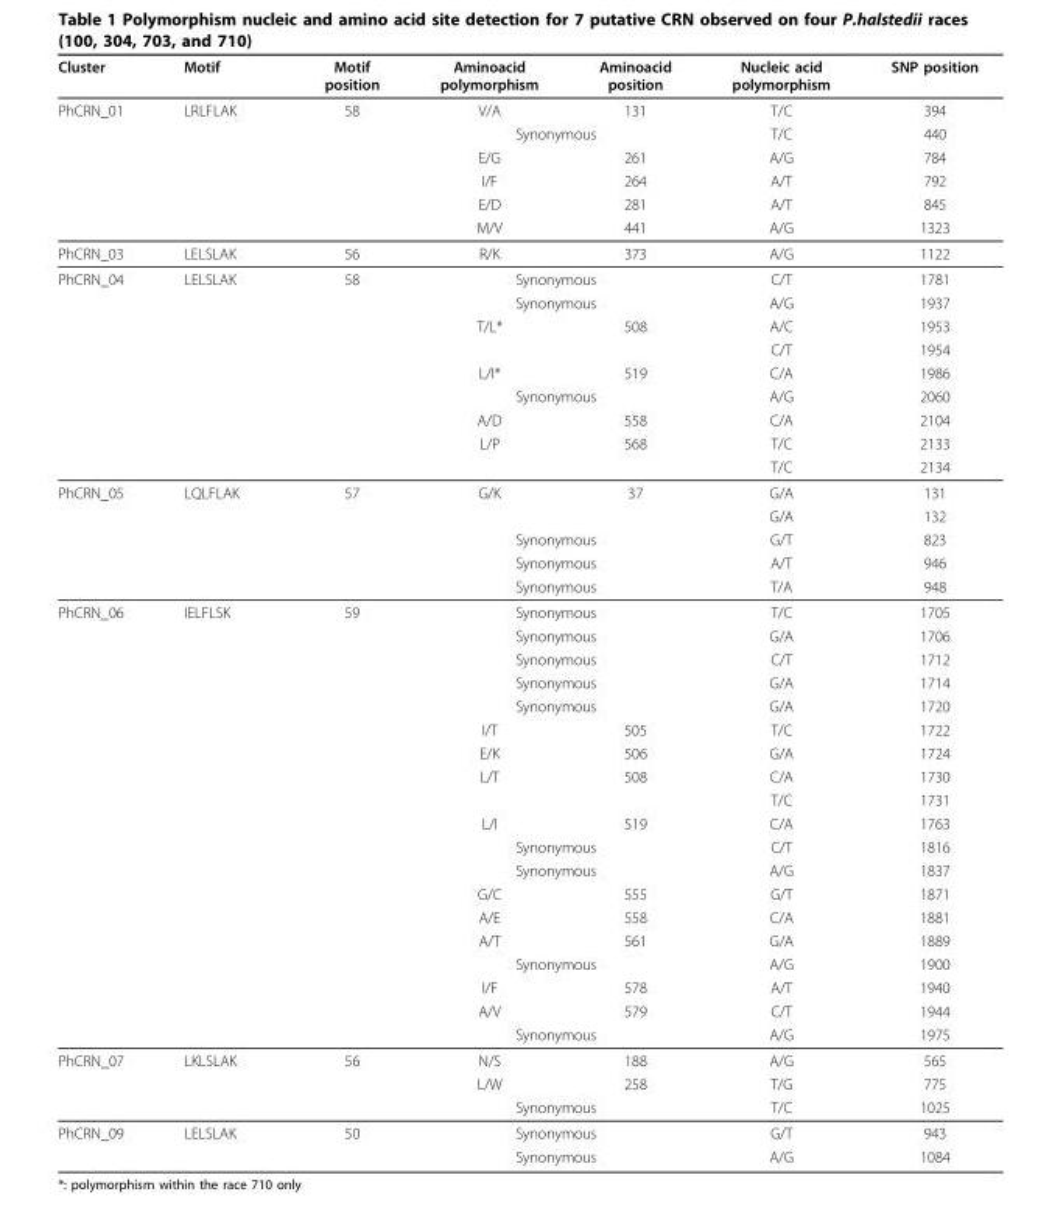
<table><thead><tr><td>Cluster</td><td>Motif</td><td>Motif position</td><td>Aminoacid polymorphism</td><td>Aminoacid position</td><td>Nucleic acid polymorphism</td><td>SNP position</td></tr></thead><tbody><tr><td rowspan="6">PhCRN_01</td><td>LRLFLAK</td><td>58</td><td>V/A</td><td>131</td><td>T/C</td><td>394</td></tr><tr><td></td><td></td><td colspan="2">Synonymous</td><td>T/C</td><td>440</td></tr><tr><td></td><td></td><td>E/G</td><td>261</td><td>A/G</td><td>784</td></tr><tr><td></td><td></td><td>I/F</td><td>264</td><td>A/T</td><td>792</td></tr><tr><td></td><td></td><td>E/D</td><td>281</td><td>A/T</td><td>845</td></tr><tr><td></td><td></td><td>M/V</td><td>441</td><td>A/G</td><td>1323</td></tr><tr><td>PhCRN_03</td><td>LELSLAK</td><td>56</td><td>R/K</td><td>373</td><td>A/G</td><td>1122</td></tr><tr><td rowspan="9">PhCRN_04</td><td>LELSLAK</td><td>58</td><td colspan="2">Synonymous</td><td>C/T</td><td>1781</td></tr><tr><td></td><td></td><td colspan="2">Synonymous</td><td>A/G</td><td>1937</td></tr><tr><td></td><td></td><td>T/L*</td><td>508</td><td>A/C</td><td>1953</td></tr><tr><td></td><td></td><td></td><td></td><td>C/T</td><td>1954</td></tr><tr><td></td><td></td><td>L/I*</td><td>519</td><td>C/A</td><td>1986</td></tr><tr><td></td><td></td><td colspan="2">Synonymous</td><td>A/G</td><td>2060</td></tr><tr><td></td><td></td><td>A/D</td><td>558</td><td>C/A</td><td>2104</td></tr><tr><td></td><td></td><td>L/P</td><td>568</td><td>T/C</td><td>2133</td></tr><tr><td></td><td></td><td></td><td></td><td>T/C</td><td>2134</td></tr><tr><td rowspan="5">PhCRN_05</td><td>LQLFLAK</td><td>57</td><td>G/K</td><td>37</td><td>G/A</td><td>131</td></tr><tr><td></td><td></td><td></td><td></td><td>G/A</td><td>132</td></tr><tr><td></td><td></td><td colspan="2">Synonymous</td><td>G/T</td><td>823</td></tr><tr><td></td><td></td><td colspan="2">Synonymous</td><td>A/T</td><td>946</td></tr><tr><td></td><td></td><td colspan="2">Synonymous</td><td>T/A</td><td>948</td></tr><tr><td rowspan="19">PhCRN_06</td><td>IELFLSK</td><td>59</td><td colspan="2">Synonymous</td><td>T/C</td><td>1705</td></tr><tr><td></td><td></td><td colspan="2">Synonymous</td><td>G/A</td><td>1706</td></tr><tr><td></td><td></td><td colspan="2">Synonymous</td><td>C/T</td><td>1712</td></tr><tr><td></td><td></td><td colspan="2">Synonymous</td><td>G/A</td><td>1714</td></tr><tr><td></td><td></td><td colspan="2">Synonymous</td><td>G/A</td><td>1720</td></tr><tr><td></td><td></td><td>I/T</td><td>505</td><td>T/C</td><td>1722</td></tr><tr><td></td><td></td><td>E/K</td><td>506</td><td>G/A</td><td>1724</td></tr><tr><td></td><td></td><td>L/T</td><td>508</td><td>C/A</td><td>1730</td></tr><tr><td></td><td></td><td></td><td></td><td>T/C</td><td>1731</td></tr><tr><td></td><td></td><td>L/I</td><td>519</td><td>C/A</td><td>1763</td></tr><tr><td></td><td></td><td colspan="2">Synonymous</td><td>C/T</td><td>1816</td></tr><tr><td></td><td></td><td colspan="2">Synonymous</td><td>A/G</td><td>1837</td></tr><tr><td></td><td></td><td>G/C</td><td>555</td><td>G/T</td><td>1871</td></tr><tr><td></td><td></td><td>A/E</td><td>558</td><td>C/A</td><td>1881</td></tr><tr><td></td><td></td><td>A/T</td><td>561</td><td>G/A</td><td>1889</td></tr><tr><td></td><td></td><td colspan="2">Synonymous</td><td>A/G</td><td>1900</td></tr><tr><td></td><td></td><td>I/F</td><td>578</td><td>A/T</td><td>1940</td></tr><tr><td></td><td></td><td>A/V</td><td>579</td><td>C/T</td><td>1944</td></tr><tr><td></td><td></td><td colspan="2">Synonymous</td><td>A/G</td><td>1975</td></tr><tr><td rowspan="3">PhCRN_07</td><td>LKLSLAK</td><td>56</td><td>N/S</td><td>188</td><td>A/G</td><td>565</td></tr><tr><td></td><td></td><td>L/W</td><td>258</td><td>T/G</td><td>775</td></tr><tr><td></td><td></td><td colspan="2">Synonymous</td><td>T/C</td><td>1025</td></tr><tr><td rowspan="2">PhCRN_09</td><td>LELSLAK</td><td>50</td><td colspan="2">Synonymous</td><td>G/T</td><td>943</td></tr><tr><td></td><td></td><td colspan="2">Synonymous</td><td>A/G</td><td>1084</td></tr></tbody></table>